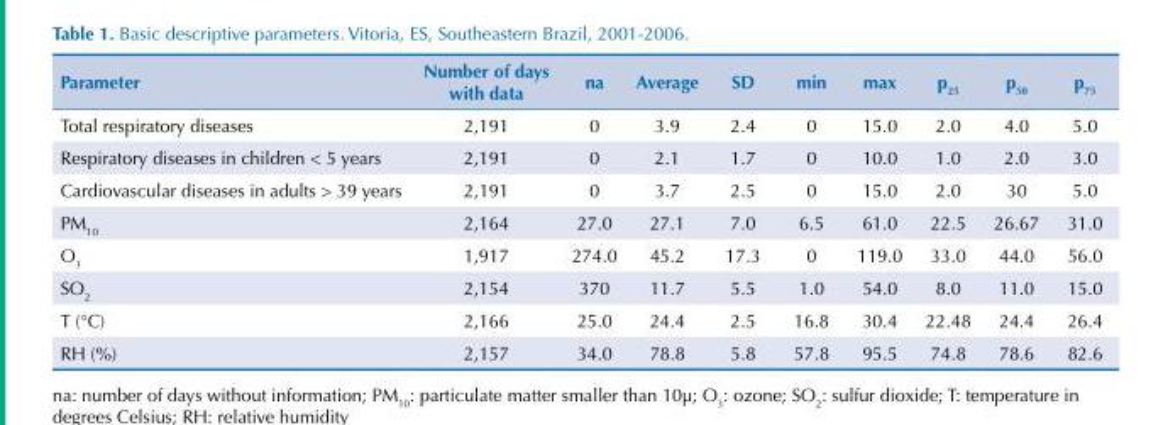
<table><thead><tr><td>Parameter</td><td>Number of days with data</td><td>na</td><td>Average</td><td>SD</td><td>min</td><td>max</td><td>p<sub>25</sub></td><td>p<sub>50</sub></td><td>p<sub>75</sub></td></tr></thead><tbody><tr><td>Total respiratory diseases</td><td>2,191</td><td>0</td><td>3.9</td><td>2.4</td><td>0</td><td>15.0</td><td>2.0</td><td>4.0</td><td>5.0</td></tr><tr><td>Respiratory diseases in children &lt; 5 years</td><td>2,191</td><td>0</td><td>2.1</td><td>1.7</td><td>0</td><td>10.0</td><td>1.0</td><td>2.0</td><td>3.0</td></tr><tr><td>Cardiovascular diseases in adults &gt; 39 years</td><td>2,191</td><td>0</td><td>3.7</td><td>2.5</td><td>0</td><td>15.0</td><td>2.0</td><td>30</td><td>5.0</td></tr><tr><td>PM<sub>10</sub></td><td>2,164</td><td>27.0</td><td>27.1</td><td>7.0</td><td>6.5</td><td>61.0</td><td>22.5</td><td>26.67</td><td>31.0</td></tr><tr><td>O<sub>3</sub></td><td>1,917</td><td>274.0</td><td>45.2</td><td>17.3</td><td>0</td><td>119.0</td><td>33.0</td><td>44.0</td><td>56.0</td></tr><tr><td>SO<sub>2</sub></td><td>2,154</td><td>370</td><td>11.7</td><td>5.5</td><td>1.0</td><td>54.0</td><td>8.0</td><td>11.0</td><td>15.0</td></tr><tr><td>T (°C)</td><td>2,166</td><td>25.0</td><td>24.4</td><td>2.5</td><td>16.8</td><td>30.4</td><td>22.48</td><td>24.4</td><td>26.4</td></tr><tr><td>RH (%)</td><td>2,157</td><td>34.0</td><td>78.8</td><td>5.8</td><td>57.8</td><td>95.5</td><td>74.8</td><td>78.6</td><td>82.6</td></tr></tbody></table>